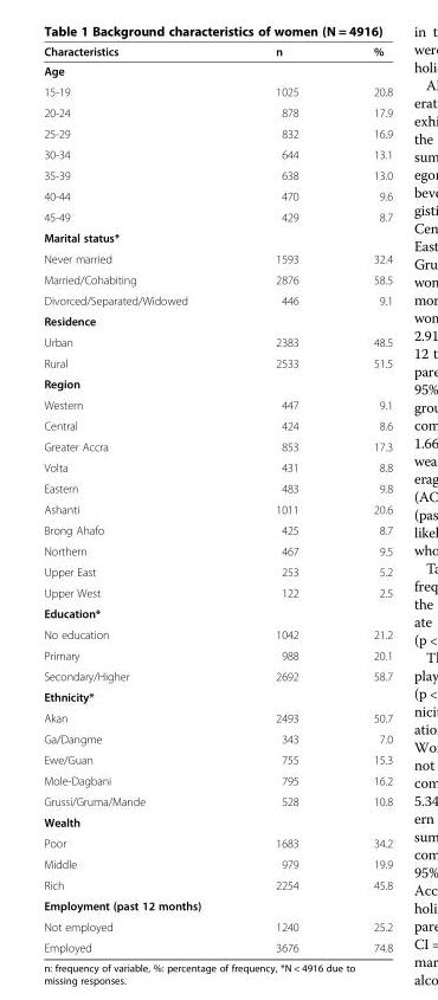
<table><thead><tr><td>Characteristics</td><td>n</td><td>%</td></tr></thead><tbody><tr><td colspan="3">Age</td></tr><tr><td>15-19</td><td>1025</td><td>20.8</td></tr><tr><td>20-24</td><td>878</td><td>17.9</td></tr><tr><td>25-29</td><td>832</td><td>16.9</td></tr><tr><td>30-34</td><td>644</td><td>13.1</td></tr><tr><td>35-39</td><td>638</td><td>13.0</td></tr><tr><td>40-44</td><td>470</td><td>9.6</td></tr><tr><td>45-49</td><td>429</td><td>8.7</td></tr><tr><td colspan="3">Marital status*</td></tr><tr><td>Never married</td><td>1593</td><td>32.4</td></tr><tr><td>Married/Cohabiting</td><td>2876</td><td>58.5</td></tr><tr><td>Divorced/Separated/Widowed</td><td>446</td><td>9.1</td></tr><tr><td colspan="3">Residence</td></tr><tr><td>Urban</td><td>2383</td><td>48.5</td></tr><tr><td>Rural</td><td>2533</td><td>51.5</td></tr><tr><td colspan="3">Region</td></tr><tr><td>Western</td><td>447</td><td>9.1</td></tr><tr><td>Central</td><td>424</td><td>8.6</td></tr><tr><td>Greater Accra</td><td>853</td><td>17.3</td></tr><tr><td>Volta</td><td>431</td><td>8.8</td></tr><tr><td>Eastern</td><td>483</td><td>9.8</td></tr><tr><td>Ashanti</td><td>1011</td><td>20.6</td></tr><tr><td>Brong Ahafo</td><td>425</td><td>8.7</td></tr><tr><td>Northern</td><td>467</td><td>9.5</td></tr><tr><td>Upper East</td><td>253</td><td>5.2</td></tr><tr><td>Upper West</td><td>122</td><td>2.5</td></tr><tr><td colspan="3">Education*</td></tr><tr><td>No education</td><td>1042</td><td>21.2</td></tr><tr><td>Primary</td><td>988</td><td>20.1</td></tr><tr><td>Secondary/Higher</td><td>2692</td><td>58.7</td></tr><tr><td colspan="3">Ethnicity*</td></tr><tr><td>Akan</td><td>2493</td><td>50.7</td></tr><tr><td>Ga/Dangme</td><td>343</td><td>7.0</td></tr><tr><td>Ewe/Guan</td><td>755</td><td>15.3</td></tr><tr><td>Mole-Dagbani</td><td>795</td><td>16.2</td></tr><tr><td>Grussi/Gruma/Mande</td><td>528</td><td>10.8</td></tr><tr><td colspan="3">Wealth</td></tr><tr><td>Poor</td><td>1683</td><td>34.2</td></tr><tr><td>Middle</td><td>979</td><td>19.9</td></tr><tr><td>Rich</td><td>2254</td><td>45.8</td></tr><tr><td colspan="3">Employment (past 12 months)</td></tr><tr><td>Not employed</td><td>1240</td><td>25.2</td></tr><tr><td>Employed</td><td>3676</td><td>74.8</td></tr></tbody></table>